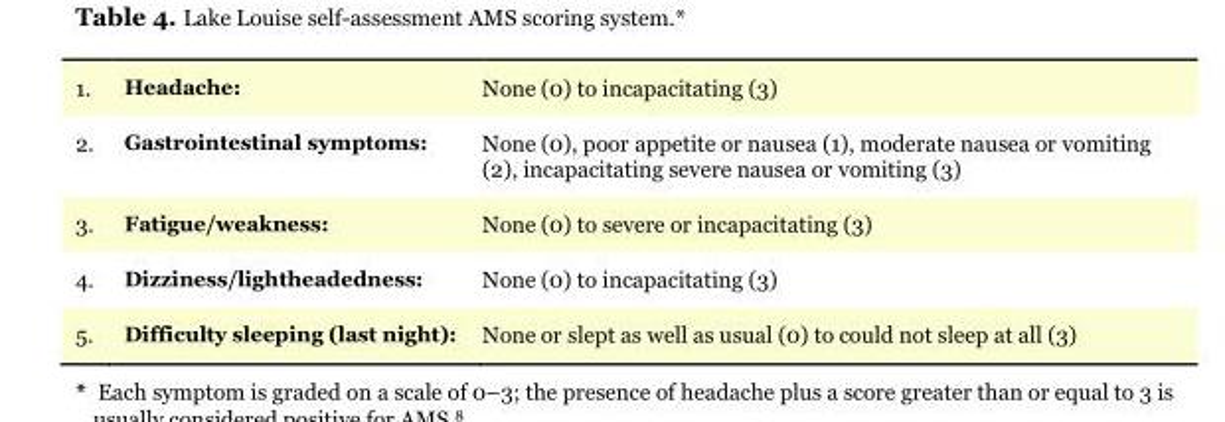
<table><tbody><tr><td>1.</td><td>Headache:</td><td>None (0) to incapacitating (3)</td></tr><tr><td>2.</td><td>Gastrointestinal symptoms:</td><td>None (0), poor appetite or nausea (1), moderate nausea or vomiting (2), incapacitating severe nausea or vomiting (3)</td></tr><tr><td>3.</td><td>Fatigue/weakness:</td><td>None (0) to severe or incapacitating (3)</td></tr><tr><td>4.</td><td>Dizziness/lightheadedness:</td><td>None (0) to incapacitating (3)</td></tr><tr><td>5.</td><td>Difficulty sleeping (last night):</td><td>None or slept as well as usual (0) to could not sleep at all (3)</td></tr></tbody></table>